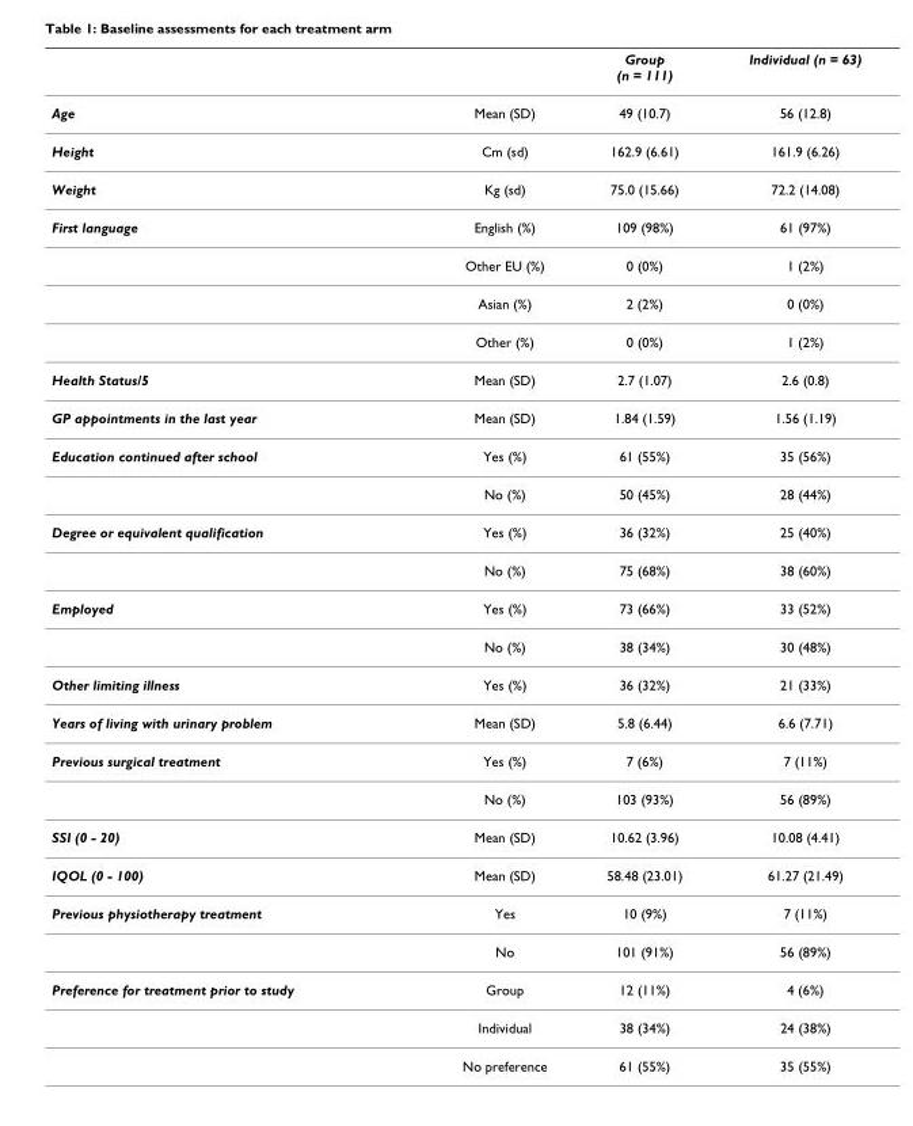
<table><thead><tr><td></td><td></td><td>Group (n = 111)</td><td>Individual (n = 63)</td></tr></thead><tbody><tr><td>Age</td><td>Mean (SD)</td><td>49 (10.7)</td><td>56 (12.8)</td></tr><tr><td>Height</td><td>Cm (sd)</td><td>162.9 (6.61)</td><td>161.9 (6.26)</td></tr><tr><td>Weight</td><td>Kg (sd)</td><td>75.0 (15.66)</td><td>72.2 (14.08)</td></tr><tr><td rowspan="4">First language</td><td>English (%)</td><td>109 (98%)</td><td>61 (97%)</td></tr><tr><td>Other EU (%)</td><td>0 (0%)</td><td>1 (2%)</td></tr><tr><td>Asian (%)</td><td>2 (2%)</td><td>0 (0%)</td></tr><tr><td>Other (%)</td><td>0 (0%)</td><td>1 (2%)</td></tr><tr><td>Health Status/5</td><td>Mean (SD)</td><td>2.7 (1.07)</td><td>2.6 (0.8)</td></tr><tr><td>GP appointments in the last year</td><td>Mean (SD)</td><td>1.84 (1.59)</td><td>1.56 (1.19)</td></tr><tr><td rowspan="2">Education continued after school</td><td>Yes (%)</td><td>61 (55%)</td><td>35 (56%)</td></tr><tr><td>No (%)</td><td>50 (45%)</td><td>28 (44%)</td></tr><tr><td rowspan="2">Degree or equivalent qualification</td><td>Yes (%)</td><td>36 (32%)</td><td>25 (40%)</td></tr><tr><td>No (%)</td><td>75 (68%)</td><td>38 (60%)</td></tr><tr><td rowspan="2">Employed</td><td>Yes (%)</td><td>73 (66%)</td><td>33 (52%)</td></tr><tr><td>No (%)</td><td>38 (34%)</td><td>30 (48%)</td></tr><tr><td>Other limiting illness</td><td>Yes (%)</td><td>36 (32%)</td><td>21 (33%)</td></tr><tr><td>Years of living with urinary problem</td><td>Mean (SD)</td><td>5.8 (6.44)</td><td>6.6 (7.71)</td></tr><tr><td rowspan="2">Previous surgical treatment</td><td>Yes (%)</td><td>7 (6%)</td><td>7 (11%)</td></tr><tr><td>No (%)</td><td>103 (93%)</td><td>56 (89%)</td></tr><tr><td>SSI (0 - 20)</td><td>Mean (SD)</td><td>10.62 (3.96)</td><td>10.08 (4.41)</td></tr><tr><td>IQOL (0 - 100)</td><td>Mean (SD)</td><td>58.48 (23.01)</td><td>61.27 (21.49)</td></tr><tr><td rowspan="2">Previous physiotherapy treatment</td><td>Yes</td><td>10 (9%)</td><td>7 (11%)</td></tr><tr><td>No</td><td>101 (91%)</td><td>56 (89%)</td></tr><tr><td rowspan="3">Preference for treatment prior to study</td><td>Group</td><td>12 (11%)</td><td>4 (6%)</td></tr><tr><td>Individual</td><td>38 (34%)</td><td>24 (38%)</td></tr><tr><td>No preference</td><td>61 (55%)</td><td>35 (55%)</td></tr></tbody></table>